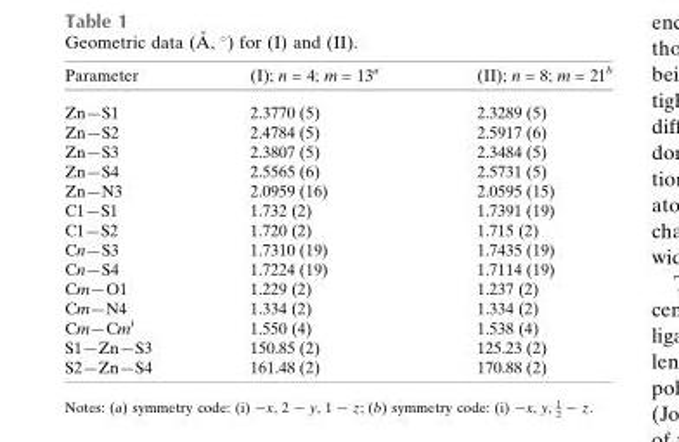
<table><thead><tr><td>Parameter</td><td>(I); n = 4; m = 13a</td><td>(II); n = 8; m = 21b</td></tr></thead><tbody><tr><td>Zn—S1</td><td>2.3770 (5)</td><td>2.3289 (5)</td></tr><tr><td>Zn—S2</td><td>2.4784 (5)</td><td>2.5917 (6)</td></tr><tr><td>Zn—S3</td><td>2.3807 (5)</td><td>2.3484 (5)</td></tr><tr><td>Zn—S4</td><td>2.5565 (6)</td><td>2.5731 (5)</td></tr><tr><td>Zn—N3</td><td>2.0959 (16)</td><td>2.0595 (15)</td></tr><tr><td>C1—S1</td><td>1.732 (2)</td><td>1.7391 (19)</td></tr><tr><td>C1—S2</td><td>1.720 (2)</td><td>1.715 (2)</td></tr><tr><td>Cn—S3</td><td>1.7310 (19)</td><td>1.7435 (19)</td></tr><tr><td>Cn—S4</td><td>1.7224 (19)</td><td>1.7114 (19)</td></tr><tr><td>Cm—O1</td><td>1.229 (2)</td><td>1.237 (2)</td></tr><tr><td>Cm—N4</td><td>1.334 (2)</td><td>1.334 (2)</td></tr><tr><td>Cm—Cm<sup>i</sup></td><td>1.550 (4)</td><td>1.538 (4)</td></tr><tr><td>S1—Zn—S3</td><td>150.85 (2)</td><td>125.23 (2)</td></tr><tr><td>S2—Zn—S4</td><td>161.48 (2)</td><td>170.88 (2)</td></tr></tbody></table>